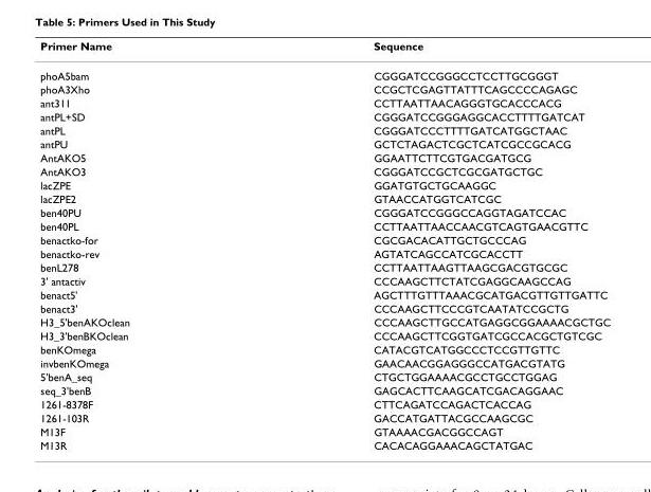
<table><thead><tr><td>Primer Name</td><td>Sequence</td></tr></thead><tbody><tr><td>phoA5bam</td><td>CGGGATCCGGGCCTCCTTGCGGGT</td></tr><tr><td>phoA3Xho</td><td>CCGCTCGAGTTATTTCAGCCCCAGAGC</td></tr><tr><td>ant311</td><td>CCTTAATTAACAGGGTGCACCCACG</td></tr><tr><td>antPL+SD</td><td>CGGGATCCGGGAGGCACCTTTTGATCAT</td></tr><tr><td>antPL</td><td>CGGGATCCCTTTTGATCATGGCTAAC</td></tr><tr><td>antPU</td><td>GCTCTAGACTCGCTCATCGCCGCACG</td></tr><tr><td>AntAKO5</td><td>GGAATTCTTCGTGACGATGCG</td></tr><tr><td>AntAKO3</td><td>CGGGATCCGCTCGCGATGCTGC</td></tr><tr><td>lacZPE</td><td>GGATGTGCTGCAAGGC</td></tr><tr><td>lacZPE2</td><td>GTAACCATGGTCATCGC</td></tr><tr><td>ben40PU</td><td>CGGGATCCGGGCCAGGTAGATCCAC</td></tr><tr><td>ben40PL</td><td>CCTTAATTAACCAACGTCAGTGAACGTTC</td></tr><tr><td>benactko-for</td><td>CGCGACACATTGCTGCCCAG</td></tr><tr><td>benactko-rev</td><td>AGTATCAGCCATCGCACCTT</td></tr><tr><td>benL278</td><td>CCTTAATTAAGTTAAGCGACGTGCGC</td></tr><tr><td>3&#x27; antactiv</td><td>CCCAAGCTTCTATCGAGGCAAGCCAG</td></tr><tr><td>benact5&#x27;</td><td>AGCTTTGTTTAAACGCATGACGTTGTTGATTC</td></tr><tr><td>benact3&#x27;</td><td>CCCAAGCTTCCCGTCAATATCCGCTG</td></tr><tr><td>H3_5&#x27;benAKOclean</td><td>CCCAAGCTTGCCATGAGGCGGAAAACGCTGC</td></tr><tr><td>H3_3&#x27;benBKOclean</td><td>CCCAAGCTTCGGTGATCGCCACGCTGTCGC</td></tr><tr><td>benKOmega</td><td>CATACGTCATGGCCCTCCGTTGTTC</td></tr><tr><td>invbenKOmega</td><td>GAACAACGGAGGGCCATGACGTATG</td></tr><tr><td>5&#x27;benA_seq</td><td>CTGCTGGAAAACGCCTGCCTGGAG</td></tr><tr><td>seq_3&#x27;benB</td><td>GAGCACTTCAAGCATCGACAGGAAC</td></tr><tr><td>1261-8378F</td><td>CTTCAGATCCAGACTCACCAG</td></tr><tr><td>1261-103R</td><td>GACCATGATTACGCCAAGCGC</td></tr><tr><td>M13F</td><td>GTAAAACGACGGCCAGT</td></tr><tr><td>M13R</td><td>CACACAGGAAACAGCTATGAC</td></tr></tbody></table>